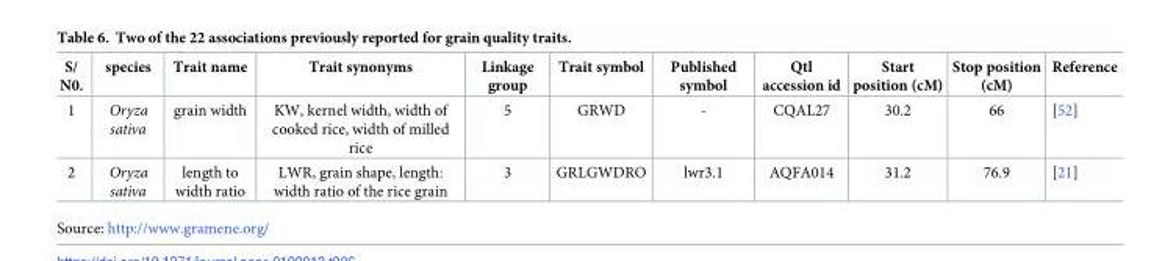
<table><thead><tr><td>S/ N0.</td><td>species</td><td>Trait name</td><td>Trait synonyms</td><td>Linkage group</td><td>Trait symbol</td><td>Published symbol</td><td>Qtl accession id</td><td>Start position (cM)</td><td>Stop position (cM)</td><td>Reference</td></tr></thead><tbody><tr><td>1</td><td>Oryza sativa</td><td>grain width</td><td>KW, kernel width, width of cooked rice, width of milled rice</td><td>5</td><td>GRWD</td><td>-</td><td>CQAL27</td><td>30.2</td><td>66</td><td>[52]</td></tr><tr><td>2</td><td>Oryza sativa</td><td>length to width ratio</td><td>LWR, grain shape, length: width ratio of the rice grain</td><td>3</td><td>GRLGWDRO</td><td>lwr3.1</td><td>AQFA014</td><td>31.2</td><td>76.9</td><td>[21]</td></tr></tbody></table>